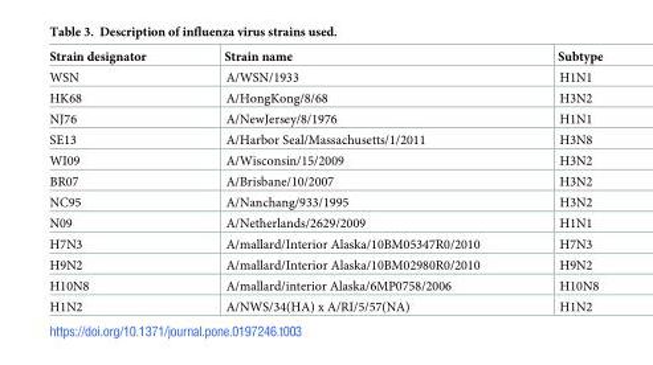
<table><thead><tr><td>Strain designator</td><td>Strain name</td><td>Subtype</td></tr></thead><tbody><tr><td>WSN</td><td>A/WSN/1933</td><td>H1N1</td></tr><tr><td>HK68</td><td>A/HongKong/8/68</td><td>H3N2</td></tr><tr><td>NJ76</td><td>A/NewJersey/8/1976</td><td>H1N1</td></tr><tr><td>SE13</td><td>A/Harbor Seal/Massachusetts/1/2011</td><td>H3N8</td></tr><tr><td>WI09</td><td>A/Wisconsin/15/2009</td><td>H3N2</td></tr><tr><td>BR07</td><td>A/Brisbane/10/2007</td><td>H3N2</td></tr><tr><td>NC95</td><td>A/Nanchang/933/1995</td><td>H3N2</td></tr><tr><td>N09</td><td>A/Netherlands/2629/2009</td><td>H1N1</td></tr><tr><td>H7N3</td><td>A/mallard/Interior Alaska/10BM05347R0/2010</td><td>H7N3</td></tr><tr><td>H9N2</td><td>A/mallard/Interior Alaska/10BM02980R0/2010</td><td>H9N2</td></tr><tr><td>H10N8</td><td>A/mallard/interior Alaska/6MP0758/2006</td><td>H10N8</td></tr><tr><td>H1N2</td><td>A/NWS/34(HA) x A/RI/5/57(NA)</td><td>H1N2</td></tr></tbody></table>